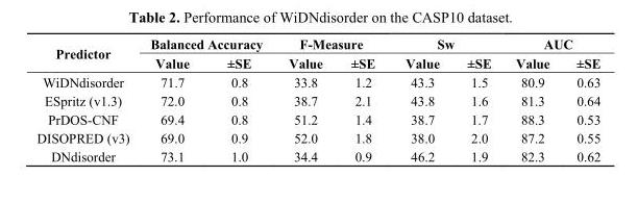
<table><thead><tr><td rowspan="2">Predictor</td><td colspan="2">Balanced Accuracy</td><td colspan="2">F-Measure</td><td colspan="2">Sw</td><td colspan="2">AUC</td></tr><tr><td>Value</td><td>±SE</td><td>Value</td><td>±SE</td><td>Value</td><td>±SE</td><td>Value</td><td>±SE</td></tr></thead><tbody><tr><td>WiDNdisorder</td><td>71.7</td><td>0.8</td><td>33.8</td><td>1.2</td><td>43.3</td><td>1.5</td><td>80.9</td><td>0.63</td></tr><tr><td>ESpritz (v1.3)</td><td>72.0</td><td>0.8</td><td>38.7</td><td>2.1</td><td>43.8</td><td>1.6</td><td>81.3</td><td>0.64</td></tr><tr><td>PrDOS-CNF</td><td>69.4</td><td>0.8</td><td>51.2</td><td>1.4</td><td>38.7</td><td>1.7</td><td>88.3</td><td>0.53</td></tr><tr><td>DISOPRED (v3)</td><td>69.0</td><td>0.9</td><td>52.0</td><td>1.8</td><td>38.0</td><td>2.0</td><td>87.2</td><td>0.55</td></tr><tr><td>DNdisorder</td><td>73.1</td><td>1.0</td><td>34.4</td><td>0.9</td><td>46.2</td><td>1.9</td><td>82.3</td><td>0.62</td></tr></tbody></table>